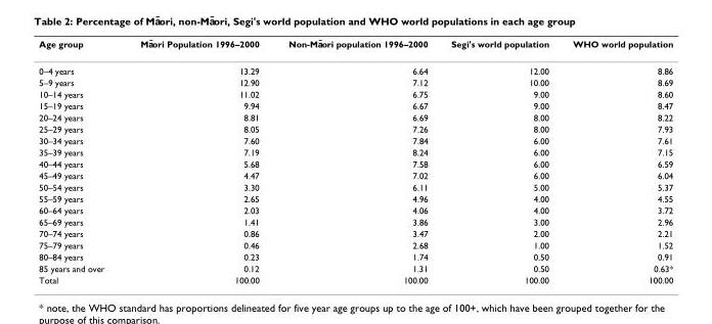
<table><thead><tr><td>Age group</td><td>Ma¯ori Population 1996–2000</td><td>Non-Ma¯ori population 1996–2000</td><td>Segi&#x27;s world population</td><td>WHO world population</td></tr></thead><tbody><tr><td>0–4 years</td><td>13.29</td><td>6.64</td><td>12.00</td><td>8.86</td></tr><tr><td>5–9 years</td><td>12.90</td><td>7.12</td><td>10.00</td><td>8.69</td></tr><tr><td>10–14 years</td><td>11.02</td><td>6.75</td><td>9.00</td><td>8.60</td></tr><tr><td>15–19 years</td><td>9.94</td><td>6.67</td><td>9.00</td><td>8.47</td></tr><tr><td>20–24 years</td><td>8.81</td><td>6.69</td><td>8.00</td><td>8.22</td></tr><tr><td>25–29 years</td><td>8.05</td><td>7.26</td><td>8.00</td><td>7.93</td></tr><tr><td>30–34 years</td><td>7.60</td><td>7.84</td><td>6.00</td><td>7.61</td></tr><tr><td>35–39 years</td><td>7.19</td><td>8.24</td><td>6.00</td><td>7.15</td></tr><tr><td>40–44 years</td><td>5.68</td><td>7.58</td><td>6.00</td><td>6.59</td></tr><tr><td>45–49 years</td><td>4.47</td><td>7.02</td><td>6.00</td><td>6.04</td></tr><tr><td>50–54 years</td><td>3.30</td><td>6.11</td><td>5.00</td><td>5.37</td></tr><tr><td>55–59 years</td><td>2.65</td><td>4.96</td><td>4.00</td><td>4.55</td></tr><tr><td>60–64 years</td><td>2.03</td><td>4.06</td><td>4.00</td><td>3.72</td></tr><tr><td>65–69 years</td><td>1.41</td><td>3.86</td><td>3.00</td><td>2.96</td></tr><tr><td>70–74 years</td><td>0.86</td><td>3.47</td><td>2.00</td><td>2.21</td></tr><tr><td>75–79 years</td><td>0.46</td><td>2.68</td><td>1.00</td><td>1.52</td></tr><tr><td>80–84 years</td><td>0.23</td><td>1.74</td><td>0.50</td><td>0.91</td></tr><tr><td>85 years and over</td><td>0.12</td><td>1.31</td><td>0.50</td><td>0.63*</td></tr><tr><td>Total</td><td>100.00</td><td>100.00</td><td>100.00</td><td>100.00</td></tr></tbody></table>